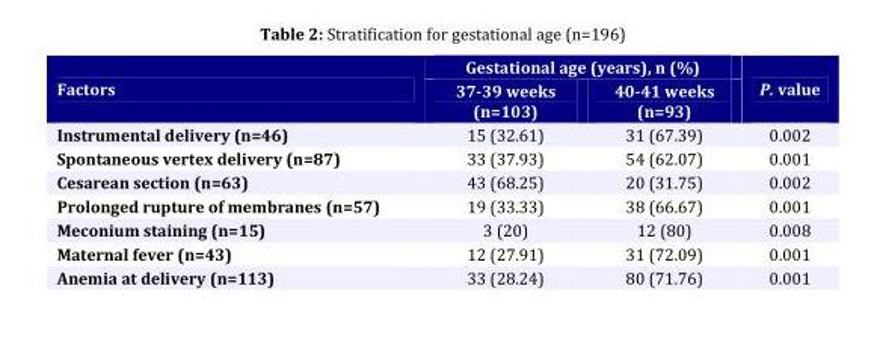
<table><tbody><tr><td rowspan="2">Factors</td><td colspan="2">Gestational age (years), n (%)</td><td rowspan="2">P. value</td></tr><tr><td>37-39 weeks (n=103)</td><td>40-41 weeks (n=93)</td></tr><tr><td>Instrumental delivery (n=46)</td><td>15 (32.61)</td><td>31 (67.39)</td><td>0.002</td></tr><tr><td>Spontaneous vertex delivery (n=87)</td><td>33 (37.93)</td><td>54 (62.07)</td><td>0.001</td></tr><tr><td>Cesarean section (n=63)</td><td>43 (68.25)</td><td>20 (31.75)</td><td>0.002</td></tr><tr><td>Prolonged rupture of membranes (n=57)</td><td>19 (33.33)</td><td>38 (66.67)</td><td>0.001</td></tr><tr><td>Meconium staining (n=15)</td><td>3 (20)</td><td>12 (80)</td><td>0.008</td></tr><tr><td>Maternal fever (n=43)</td><td>12 (27.91)</td><td>31 (72.09)</td><td>0.001</td></tr><tr><td>Anemia at delivery (n=113)</td><td>33 (28.24)</td><td>80 (71.76)</td><td>0.001</td></tr></tbody></table>